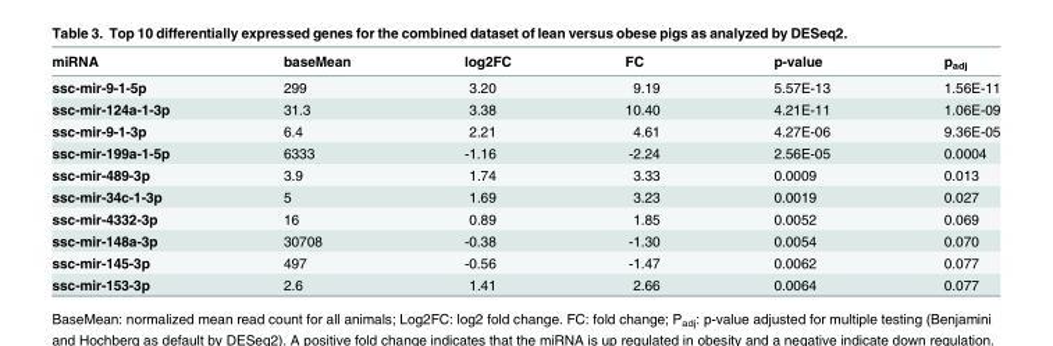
<table><thead><tr><td>miRNA</td><td>baseMean</td><td>log2FC</td><td>FC</td><td>p-value</td><td>p<sub>adj</sub></td></tr></thead><tbody><tr><td>ssc-mir-9-1-5p</td><td>299</td><td>3.20</td><td>9.19</td><td>5.57E-13</td><td>1.56E-11</td></tr><tr><td>ssc-mir-124a-1-3p</td><td>31.3</td><td>3.38</td><td>10.40</td><td>4.21E-11</td><td>1.06E-09</td></tr><tr><td>ssc-mir-9-1-3p</td><td>6.4</td><td>2.21</td><td>4.61</td><td>4.27E-06</td><td>9.36E-05</td></tr><tr><td>ssc-mir-199a-1-5p</td><td>6333</td><td>-1.16</td><td>-2.24</td><td>2.56E-05</td><td>0.0004</td></tr><tr><td>ssc-mir-489-3p</td><td>3.9</td><td>1.74</td><td>3.33</td><td>0.0009</td><td>0.013</td></tr><tr><td>ssc-mir-34c-1-3p</td><td>5</td><td>1.69</td><td>3.23</td><td>0.0019</td><td>0.027</td></tr><tr><td>ssc-mir-4332-3p</td><td>16</td><td>0.89</td><td>1.85</td><td>0.0052</td><td>0.069</td></tr><tr><td>ssc-mir-148a-3p</td><td>30708</td><td>-0.38</td><td>-1.30</td><td>0.0054</td><td>0.070</td></tr><tr><td>ssc-mir-145-3p</td><td>497</td><td>-0.56</td><td>-1.47</td><td>0.0062</td><td>0.077</td></tr><tr><td>ssc-mir-153-3p</td><td>2.6</td><td>1.41</td><td>2.66</td><td>0.0064</td><td>0.077</td></tr></tbody></table>